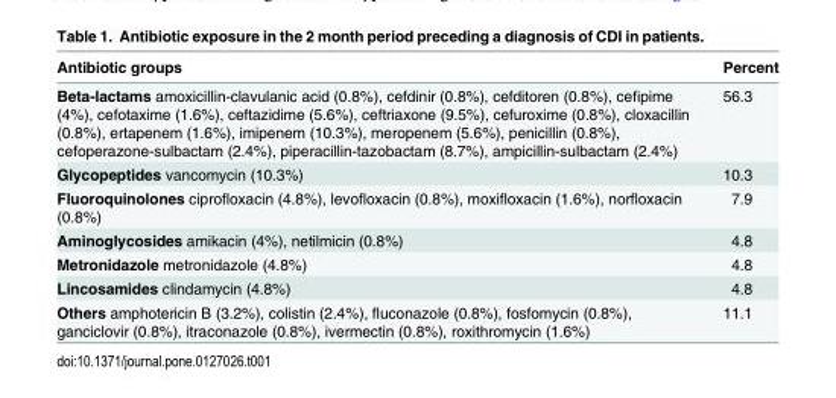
<table><thead><tr><td>Antibiotic groups</td><td>Percent</td></tr></thead><tbody><tr><td>Beta-lactams amoxicillin-clavulanic acid (0.8%), cefdinir (0.8%), cefditoren (0.8%), cefipime (4%), cefotaxime (1.6%), ceftazidime (5.6%), ceftriaxone (9.5%), cefuroxime (0.8%), cloxacillin (0.8%), ertapenem (1.6%), imipenem (10.3%), meropenem (5.6%), penicillin (0.8%), cefoperazone-sulbactam (2.4%), piperacillin-tazobactam (8.7%), ampicillin-sulbactam (2.4%)</td><td>56.3</td></tr><tr><td>Glycopeptides vancomycin (10.3%)</td><td>10.3</td></tr><tr><td>Fluoroquinolones ciprofloxacin (4.8%), levofloxacin (0.8%), moxifloxacin (1.6%), norfloxacin (0.8%)</td><td>7.9</td></tr><tr><td>Aminoglycosides amikacin (4%), netilmicin (0.8%)</td><td>4.8</td></tr><tr><td>Metronidazole metronidazole (4.8%)</td><td>4.8</td></tr><tr><td>Lincosamides clindamycin (4.8%)</td><td>4.8</td></tr><tr><td>Others amphotericin B (3.2%), colistin (2.4%), fluconazole (0.8%), fosfomycin (0.8%), ganciclovir (0.8%), itraconazole (0.8%), ivermectin (0.8%), roxithromycin (1.6%)</td><td>11.1</td></tr></tbody></table>